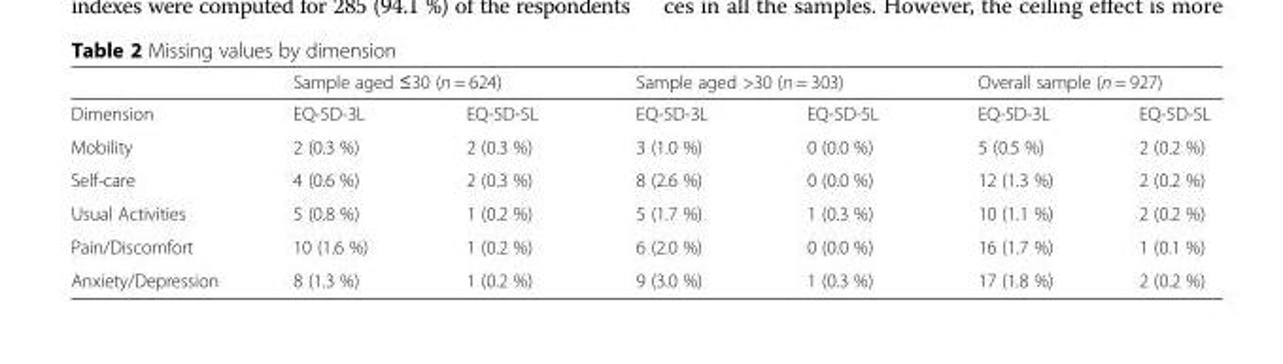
<table><thead><tr><td rowspan="2">Dimension</td><td colspan="2">Sample aged ≤30 (n = 624)</td><td colspan="2">Sample aged &gt;30 (n = 303)</td><td colspan="2">Overall sample (n = 927)</td></tr><tr><td>EQ-5D-3L</td><td>EQ-5D-5L</td><td>EQ-5D-3L</td><td>EQ-5D-5L</td><td>EQ-5D-3L</td><td>EQ-5D-5L</td></tr></thead><tbody><tr><td>Mobility</td><td>2 (0.3 %)</td><td>2 (0.3 %)</td><td>3 (1.0 %)</td><td>0 (0.0 %)</td><td>5 (0.5 %)</td><td>2 (0.2 %)</td></tr><tr><td>Self-care</td><td>4 (0.6 %)</td><td>2 (0.3 %)</td><td>8 (2.6 %)</td><td>0 (0.0 %)</td><td>12 (1.3 %)</td><td>2 (0.2 %)</td></tr><tr><td>Usual Activities</td><td>5 (0.8 %)</td><td>1 (0.2 %)</td><td>5 (1.7 %)</td><td>1 (0.3 %)</td><td>10 (1.1 %)</td><td>2 (0.2 %)</td></tr><tr><td>Pain/Discomfort</td><td>10 (1.6 %)</td><td>1 (0.2 %)</td><td>6 (2.0 %)</td><td>0 (0.0 %)</td><td>16 (1.7 %)</td><td>1 (0.1 %)</td></tr><tr><td>Anxiety/Depression</td><td>8 (1.3 %)</td><td>1 (0.2 %)</td><td>9 (3.0 %)</td><td>1 (0.3 %)</td><td>17 (1.8 %)</td><td>2 (0.2 %)</td></tr></tbody></table>